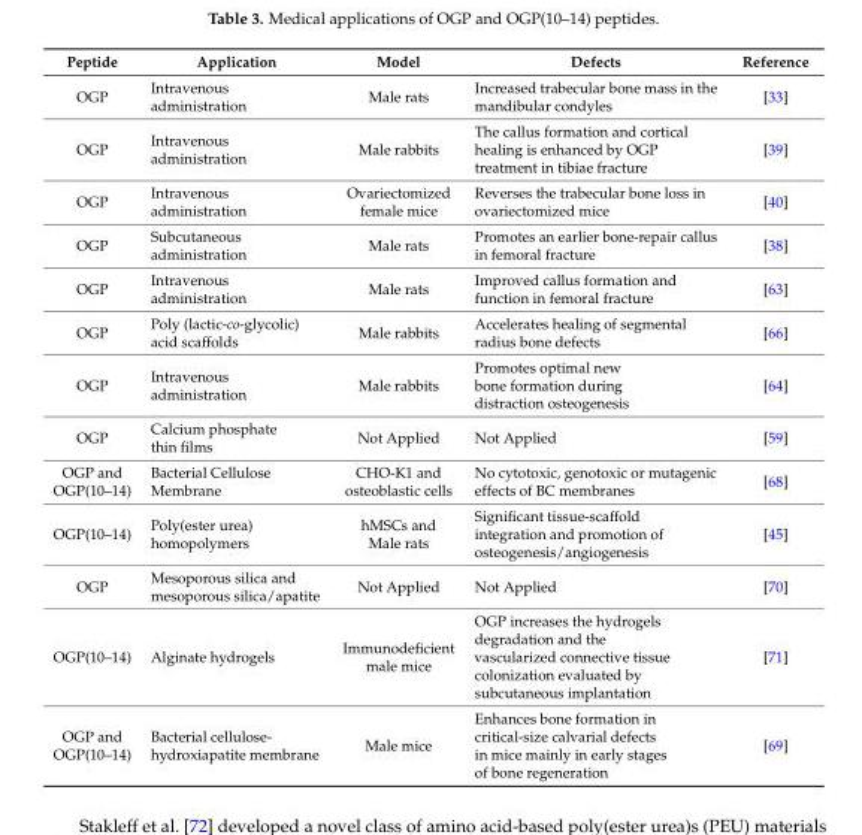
<table><thead><tr><td>Peptide</td><td>Application</td><td>Model</td><td>Defects</td><td>Reference</td></tr></thead><tbody><tr><td>OGP</td><td>Intravenous administration</td><td>Male rats</td><td>Increased trabecular bone mass in the mandibular condyles</td><td>[33]</td></tr><tr><td>OGP</td><td>Intravenous administration</td><td>Male rabbits</td><td>The callus formation and cortical healing is enhanced by OGP treatment in tibiae fracture</td><td>[39]</td></tr><tr><td>OGP</td><td>Intravenous administration</td><td>Ovariectomized female mice</td><td>Reverses the trabecular bone loss in ovariectomized mice</td><td>[40]</td></tr><tr><td>OGP</td><td>Subcutaneous administration</td><td>Male rats</td><td>Promotes an earlier bone-repair callus in femoral fracture</td><td>[38]</td></tr><tr><td>OGP</td><td>Intravenous administration</td><td>Male rats</td><td>Improved callus formation and function in femoral fracture</td><td>[63]</td></tr><tr><td>OGP</td><td>Poly (lactic-co-glycolic) acid scaffolds</td><td>Male rabbits</td><td>Accelerates healing of segmental radius bone defects</td><td>[66]</td></tr><tr><td>OGP</td><td>Intravenous administration</td><td>Male rabbits</td><td>Promotes optimal new bone formation during distraction osteogenesis</td><td>[64]</td></tr><tr><td>OGP</td><td>Calcium phosphate thin films</td><td>Not Applied</td><td>Not Applied</td><td>[59]</td></tr><tr><td>OGP and OGP(10–14)</td><td>Bacterial Cellulose Membrane</td><td>CHO-K1 and osteoblastic cells</td><td>No cytotoxic, genotoxic or mutagenic effects of BC membranes</td><td>[68]</td></tr><tr><td>OGP(10–14)</td><td>Poly(ester urea) homopolymers</td><td>hMSCs and Male rats</td><td>Significant tissue-scaffold integration and promotion of osteogenesis/angiogenesis</td><td>[45]</td></tr><tr><td>OGP</td><td>Mesoporous silica and mesoporous silica/apatite</td><td>Not Applied</td><td>Not Applied</td><td>[70]</td></tr><tr><td>OGP(10–14)</td><td>Alginate hydrogels</td><td>Immunodeficient male mice</td><td>OGP increases the hydrogels degradation and the vascularized connective tissue colonization evaluated by subcutaneous implantation</td><td>[71]</td></tr><tr><td>OGP and OGP(10–14)</td><td>Bacterial cellulose- hydroxiapatite membrane</td><td>Male mice</td><td>Enhances bone formation in critical-size calvarial defects in mice mainly in early stages of bone regeneration</td><td>[69]</td></tr></tbody></table>